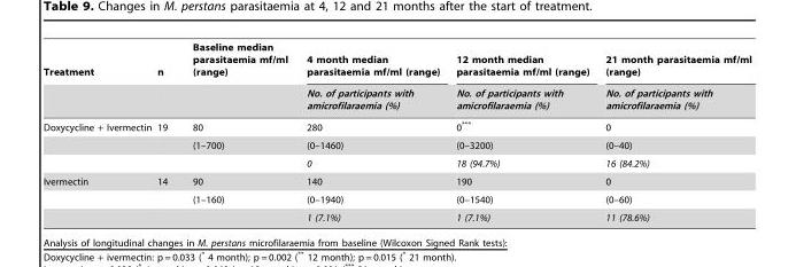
<table><thead><tr><td rowspan="2">Treatment</td><td rowspan="2">n</td><td rowspan="2">Baseline median parasitaemia mf/ml (range)</td><td rowspan="2">4 month median parasitaemia mf/ml (range) No. of participants with amicrofilaraemia (%)</td><td rowspan="2">12 month median parasitaemia mf/ml (range) No. of participants with amicrofilaraemia (%)</td><td rowspan="2">21 month parasitaemia mf/ml (range) No. of participants with amicrofilaraemia (%)</td></tr><tr></tr></thead><tbody><tr><td rowspan="3">Doxycycline + Ivermectin</td><td>19</td><td>80</td><td>280</td><td>0***</td><td>0</td></tr><tr><td></td><td>(1–700)</td><td>(0–1460)</td><td>(0–3200)</td><td>(0–40)</td></tr><tr><td></td><td></td><td>0</td><td>18 (94.7%)</td><td>16 (84.2%)</td></tr><tr><td rowspan="3">Ivermectin</td><td>14</td><td>90</td><td>140</td><td>190</td><td>0</td></tr><tr><td></td><td>(1–160)</td><td>(0–1940)</td><td>(0–1540)</td><td>(0–60)</td></tr><tr><td></td><td></td><td>1 (7.1%)</td><td>1 (7.1%)</td><td>11 (78.6%)</td></tr></tbody></table>